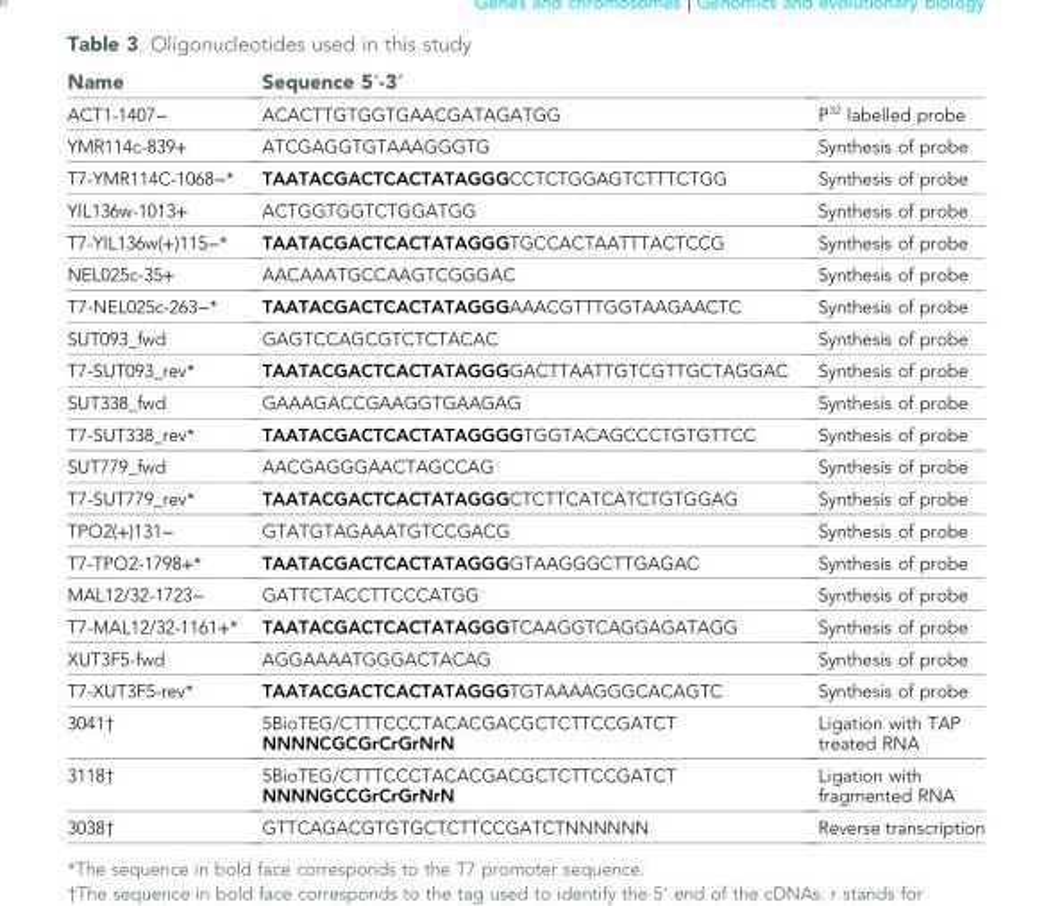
<table><thead><tr><td>Name</td><td>Sequence 5′-3′</td><td></td></tr></thead><tbody><tr><td>ACT1-1407−</td><td>ACACTTGTGGTGAACGATAGATGG</td><td>P<sup>32</sup> labelled probe</td></tr><tr><td>YMR114c-839+</td><td>ATCGAGGTGTAAAGGGTG</td><td>Synthesis of probe</td></tr><tr><td>T7-YMR114C-1068−*</td><td>TAATACGACTCACTATAGGGCCTCTGGAGTCTTTCTGG</td><td>Synthesis of probe</td></tr><tr><td>YIL136w-1013+</td><td>ACTGGTGGTCTGGATGG</td><td>Synthesis of probe</td></tr><tr><td>T7-YIL136w(+)115−*</td><td>TAATACGACTCACTATAGGGTGCCACTAATTTACTCCG</td><td>Synthesis of probe</td></tr><tr><td>NEL025c-35+</td><td>AACAAATGCCAAGTCGGGAC</td><td>Synthesis of probe</td></tr><tr><td>T7-NEL025c-263−*</td><td>TAATACGACTCACTATAGGGAAACGTTTGGTAAGAACTC</td><td>Synthesis of probe</td></tr><tr><td>SUT093_fwd</td><td>GAGTCCAGCGTCTCTACAC</td><td>Synthesis of probe</td></tr><tr><td>T7-SUT093_rev*</td><td>TAATACGACTCACTATAGGGGACTTAATTGTCGTTGCTAGGAC</td><td>Synthesis of probe</td></tr><tr><td>SUT338_fwd</td><td>GAAAGACCGAAGGTGAAGAG</td><td>Synthesis of probe</td></tr><tr><td>T7-SUT338_rev*</td><td>TAATACGACTCACTATAGGGGTGGTACAGCCCTGTGTTCC</td><td>Synthesis of probe</td></tr><tr><td>SUT779_fwd</td><td>AACGAGGGAACTAGCCAG</td><td>Synthesis of probe</td></tr><tr><td>T7-SUT779_rev*</td><td>TAATACGACTCACTATAGGGCTCTTCATCATCTGTGGAG</td><td>Synthesis of probe</td></tr><tr><td>TPO2(+)131−</td><td>GTATGTAGAAATGTCCGACG</td><td>Synthesis of probe</td></tr><tr><td>T7-TPO2-1798+*</td><td>TAATACGACTCACTATAGGGGTAAGGGCTTGAGAC</td><td>Synthesis of probe</td></tr><tr><td>MAL12/32-1723−</td><td>GATTCTACCTTCCCATGG</td><td>Synthesis of probe</td></tr><tr><td>T7-MAL12/32-1161+*</td><td>TAATACGACTCACTATAGGGTCAAGGTCAGGAGATAGG</td><td>Synthesis of probe</td></tr><tr><td>XUT3F5-fwd</td><td>AGGAAAATGGGACTACAG</td><td>Synthesis of probe</td></tr><tr><td>T7-XUT3F5-rev*</td><td>TAATACGACTCACTATAGGGTGTAAAAGGGCACAGTC</td><td>Synthesis of probe</td></tr><tr><td>3041†</td><td>5BioTEG/CTTTCCCTACACGACGCTCTTCCGATCT NNNNCGCGrCrGrNrN</td><td>Ligation with TAP treated RNA</td></tr><tr><td>3118†</td><td>5BioTEG/CTTTCCCTACACGACGCTCTTCCGATCT NNNNGCCGrCrGrNrN</td><td>Ligation with fragmented RNA</td></tr><tr><td>3038†</td><td>GTTCAGACGTGTGCTCTTCCGATCTNNNNNN</td><td>Reverse transcription</td></tr></tbody></table>